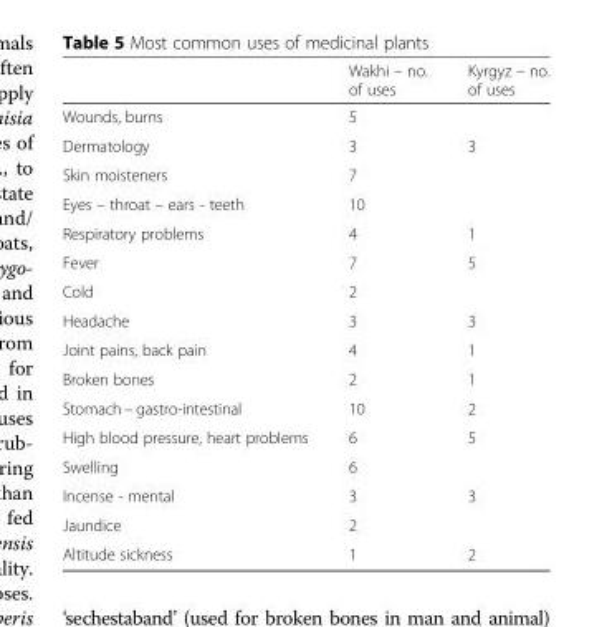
<table><thead><tr><td></td><td>Wakhi – no. of uses</td><td>Kyrgyz – no. of uses</td></tr></thead><tbody><tr><td>Wounds, burns</td><td>5</td><td></td></tr><tr><td>Dermatology</td><td>3</td><td>3</td></tr><tr><td>Skin moisteners</td><td>7</td><td></td></tr><tr><td>Eyes – throat – ears - teeth</td><td>10</td><td></td></tr><tr><td>Respiratory problems</td><td>4</td><td>1</td></tr><tr><td>Fever</td><td>7</td><td>5</td></tr><tr><td>Cold</td><td>2</td><td></td></tr><tr><td>Headache</td><td>3</td><td>3</td></tr><tr><td>Joint pains, back pain</td><td>4</td><td>1</td></tr><tr><td>Broken bones</td><td>2</td><td>1</td></tr><tr><td>Stomach – gastro-intestinal</td><td>10</td><td>2</td></tr><tr><td>High blood pressure, heart problems</td><td>6</td><td>5</td></tr><tr><td>Swelling</td><td>6</td><td></td></tr><tr><td>Incense - mental</td><td>3</td><td>3</td></tr><tr><td>Jaundice</td><td>2</td><td></td></tr><tr><td>Altitude sickness</td><td>1</td><td>2</td></tr></tbody></table>